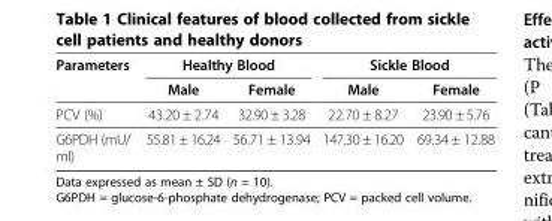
<table><thead><tr><td rowspan="2">Parameters</td><td colspan="2">Healthy Blood</td><td colspan="2">Sickle Blood</td></tr><tr><td>Male</td><td>Female</td><td>Male</td><td>Female</td></tr></thead><tbody><tr><td>PCV (%)</td><td>43.20 ± 2.74</td><td>32.90 ± 3.28</td><td>22.70 ± 8.27</td><td>23.90 ± 5.76</td></tr><tr><td>G6PDH (mU/ ml)</td><td>55.81 ± 16.24</td><td>56.71 ± 13.94</td><td>147.30 ± 16.20</td><td>69.34 ± 12.88</td></tr></tbody></table>